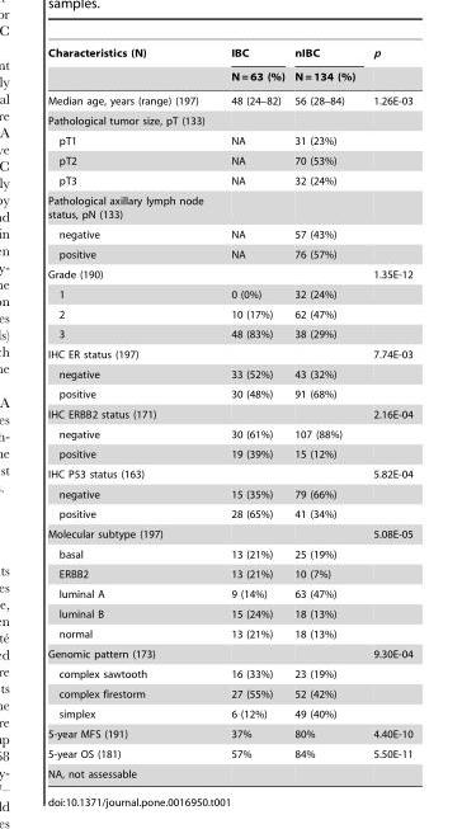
<table><thead><tr><td rowspan="2">Characteristics (N)</td><td rowspan="2">IBC N = 63 (%)</td><td rowspan="2">nIBC N = 134 (%)</td><td rowspan="2">p</td></tr><tr></tr></thead><tbody><tr><td>Median age, years (range) (197)</td><td>48 (24–82)</td><td>56 (28–84)</td><td>1.26E-03</td></tr><tr><td colspan="4">Pathological tumor size, pT (133)</td></tr><tr><td>pT1</td><td>NA</td><td>31 (23%)</td><td></td></tr><tr><td>pT2</td><td>NA</td><td>70 (53%)</td><td></td></tr><tr><td>pT3</td><td>NA</td><td>32 (24%)</td><td></td></tr><tr><td colspan="4">Pathological axillary lymph node status, pN (133)</td></tr><tr><td>negative</td><td>NA</td><td>57 (43%)</td><td></td></tr><tr><td>positive</td><td>NA</td><td>76 (57%)</td><td></td></tr><tr><td>Grade (190)</td><td></td><td></td><td>1.35E-12</td></tr><tr><td>1</td><td>0 (0%)</td><td>32 (24%)</td><td></td></tr><tr><td>2</td><td>10 (17%)</td><td>62 (47%)</td><td></td></tr><tr><td>3</td><td>48 (83%)</td><td>38 (29%)</td><td></td></tr><tr><td>IHC ER status (197)</td><td></td><td></td><td>7.74E-03</td></tr><tr><td>negative</td><td>33 (52%)</td><td>43 (32%)</td><td></td></tr><tr><td>positive</td><td>30 (48%)</td><td>91 (68%)</td><td></td></tr><tr><td>IHC ERBB2 status (171)</td><td></td><td></td><td>2.16E-04</td></tr><tr><td>negative</td><td>30 (61%)</td><td>107 (88%)</td><td></td></tr><tr><td>positive</td><td>19 (39%)</td><td>15 (12%)</td><td></td></tr><tr><td>IHC P53 status (163)</td><td></td><td></td><td>5.82E-04</td></tr><tr><td>negative</td><td>15 (35%)</td><td>79 (66%)</td><td></td></tr><tr><td>positive</td><td>28 (65%)</td><td>41 (34%)</td><td></td></tr><tr><td>Molecular subtype (197)</td><td></td><td></td><td>5.08E-05</td></tr><tr><td>basal</td><td>13 (21%)</td><td>25 (19%)</td><td></td></tr><tr><td>ERBB2</td><td>13 (21%)</td><td>10 (7%)</td><td></td></tr><tr><td>luminal A</td><td>9 (14%)</td><td>63 (47%)</td><td></td></tr><tr><td>luminal B</td><td>15 (24%)</td><td>18 (13%)</td><td></td></tr><tr><td>normal</td><td>13 (21%)</td><td>18 (13%)</td><td></td></tr><tr><td>Genomic pattern (173)</td><td></td><td></td><td>9.30E-04</td></tr><tr><td>complex sawtooth</td><td>16 (33%)</td><td>23 (19%)</td><td></td></tr><tr><td>complex firestorm</td><td>27 (55%)</td><td>52 (42%)</td><td></td></tr><tr><td>simplex</td><td>6 (12%)</td><td>49 (40%)</td><td></td></tr><tr><td>5-year MFS (191)</td><td>37%</td><td>80%</td><td>4.40E-10</td></tr><tr><td>5-year OS (181)</td><td>57%</td><td>84%</td><td>5.50E-11</td></tr><tr><td>NA, not assessable</td><td></td><td></td><td></td></tr></tbody></table>